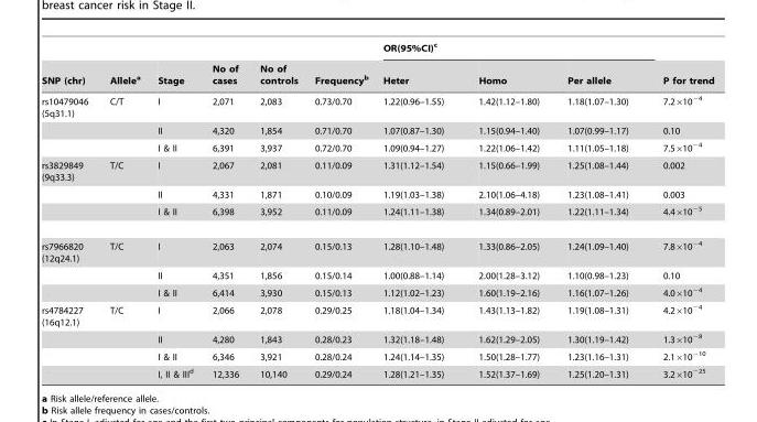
<table><thead><tr><td rowspan="2">SNP (chr)</td><td rowspan="2">Allele<sup>a</sup></td><td rowspan="2">Stage</td><td rowspan="2">No of cases</td><td rowspan="2">No of controls</td><td rowspan="2">Frequency<sup>b</sup></td><td colspan="3">OR(95%CI)<sup>c</sup></td><td rowspan="2">P for trend</td></tr><tr><td>Heter</td><td>Homo</td><td>Per allele</td></tr></thead><tbody><tr><td rowspan="3">rs10479046 (5q31.1)</td><td>C/T</td><td>I</td><td>2,071</td><td>2,083</td><td>0.73/0.70</td><td>1.22(0.96–1.55)</td><td>1.42(1.12–1.80)</td><td>1.18(1.07–1.30)</td><td>7.2×10<sup>−4</sup></td></tr><tr><td></td><td>II</td><td>4,320</td><td>1,854</td><td>0.71/0.70</td><td>1.07(0.87–1.30)</td><td>1.15(0.94–1.40)</td><td>1.07(0.99–1.17)</td><td>0.10</td></tr><tr><td></td><td>I &amp; II</td><td>6,391</td><td>3,937</td><td>0.72/0.70</td><td>1.09(0.94–1.27)</td><td>1.22(1.06–1.42)</td><td>1.11(1.05–1.18)</td><td>7.5×10<sup>−4</sup></td></tr><tr><td rowspan="3">rs3829849 (9q33.3)</td><td>T/C</td><td>I</td><td>2,067</td><td>2,081</td><td>0.11/0.09</td><td>1.31(1.12–1.54)</td><td>1.15(0.66–1.99)</td><td>1.25(1.08–1.44)</td><td>0.002</td></tr><tr><td></td><td>II</td><td>4,331</td><td>1,871</td><td>0.10/0.09</td><td>1.19(1.03–1.38)</td><td>2.10(1.06–4.18)</td><td>1.23(1.08–1.41)</td><td>0.003</td></tr><tr><td></td><td>I &amp; II</td><td>6,398</td><td>3,952</td><td>0.11/0.09</td><td>1.24(1.11–1.38)</td><td>1.34(0.89–2.01)</td><td>1.22(1.11–1.34)</td><td>4.4×10<sup>−5</sup></td></tr><tr><td rowspan="3">rs7966820 (12q24.1)</td><td>T/C</td><td>I</td><td>2,063</td><td>2,074</td><td>0.15/0.13</td><td>1.28(1.10–1.48)</td><td>1.33(0.86–2.05)</td><td>1.24(1.09–1.40)</td><td>7.8×10<sup>−4</sup></td></tr><tr><td></td><td>II</td><td>4,351</td><td>1,856</td><td>0.15/0.14</td><td>1.00(0.88–1.14)</td><td>2.00(1.28–3.12)</td><td>1.10(0.98–1.23)</td><td>0.10</td></tr><tr><td></td><td>I &amp; II</td><td>6,414</td><td>3,930</td><td>0.15/0.13</td><td>1.12(1.02–1.23)</td><td>1.60(1.19–2.16)</td><td>1.16(1.07–1.26)</td><td>4.0×10<sup>−4</sup></td></tr><tr><td rowspan="4">rs4784227 (16q12.1)</td><td>T/C</td><td>I</td><td>2,066</td><td>2,078</td><td>0.29/0.25</td><td>1.18(1.04–1.34)</td><td>1.43(1.13–1.82)</td><td>1.19(1.08–1.31)</td><td>4.2×10<sup>−4</sup></td></tr><tr><td></td><td>II</td><td>4,280</td><td>1,843</td><td>0.28/0.23</td><td>1.32(1.18–1.48)</td><td>1.62(1.29–2.05)</td><td>1.30(1.19–1.42)</td><td>1.3×10<sup>−8</sup></td></tr><tr><td></td><td>I &amp; II</td><td>6,346</td><td>3,921</td><td>0.28/0.24</td><td>1.24(1.14–1.35)</td><td>1.50(1.28–1.77)</td><td>1.23(1.16–1.31)</td><td>2.1×10<sup>−10</sup></td></tr><tr><td></td><td>I, II &amp; III<sup>d</sup></td><td>12,336</td><td>10,140</td><td>0.29/0.24</td><td>1.28(1.21–1.35)</td><td>1.52(1.37–1.69)</td><td>1.25(1.20–1.31)</td><td>3.2×10<sup>−25</sup></td></tr></tbody></table>